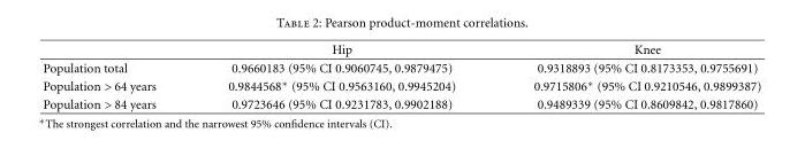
<table><thead><tr><td></td><td>Hip</td><td>Knee</td></tr></thead><tbody><tr><td>Population total</td><td>0.9660183 (95% CI 0.9060745, 0.9879475)</td><td>0.9318893 (95% CI 0.8173353, 0.9755691)</td></tr><tr><td>Population &gt; 64 years</td><td>0.9844568∗ (95% CI 0.9563160, 0.9945204)</td><td>0.9715806∗ (95% CI 0.9210546, 0.9899387)</td></tr><tr><td>Population &gt; 84 years</td><td>0.9723646 (95% CI 0.9231783, 0.9902188)</td><td>0.9489339 (95% CI 0.8609842, 0.9817860)</td></tr></tbody></table>